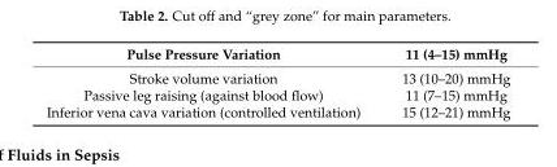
<table><thead><tr><td>Pulse Pressure Variation</td><td>11 (4–15) mmHg</td></tr></thead><tbody><tr><td>Stroke volume variation</td><td>13 (10–20) mmHg</td></tr><tr><td>Passive leg raising (against blood flow)</td><td>11 (7–15) mmHg</td></tr><tr><td>Inferior vena cava variation (controlled ventilation)</td><td>15 (12–21) mmHg</td></tr></tbody></table>